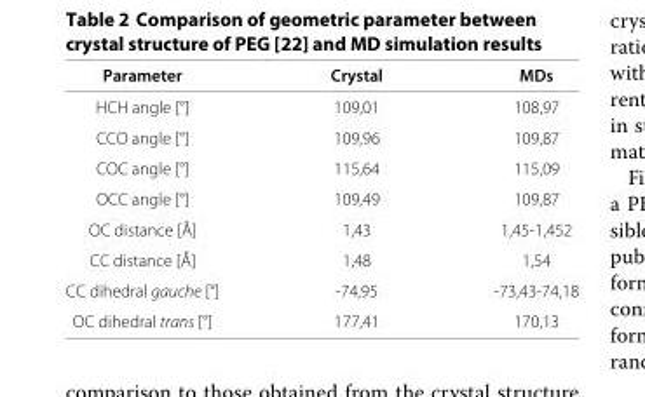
<table><thead><tr><td>Parameter</td><td>Crystal</td><td>MDs</td></tr></thead><tbody><tr><td>HCH angle [°]</td><td>109,01</td><td>108,97</td></tr><tr><td>CCO angle [°]</td><td>109,96</td><td>109,87</td></tr><tr><td>COC angle [°]</td><td>115,64</td><td>115,09</td></tr><tr><td>OCC angle [°]</td><td>109,49</td><td>109,87</td></tr><tr><td>OC distance [˚A]</td><td>1,43</td><td>1,45-1,452</td></tr><tr><td>CC distance [˚A]</td><td>1,48</td><td>1,54</td></tr><tr><td>CC dihedral gauche [°]</td><td>-74,95</td><td>-73,43-74,18</td></tr><tr><td>OC dihedral trans [°]</td><td>177,41</td><td>170,13</td></tr></tbody></table>